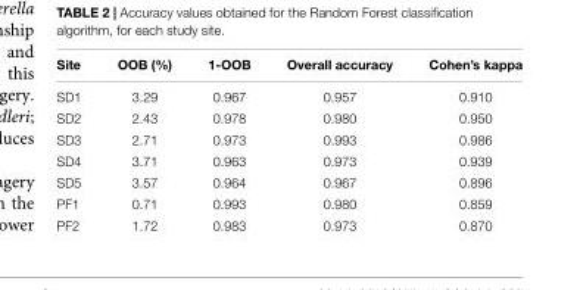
<table><thead><tr><td>Site</td><td>OOB (%)</td><td>1-OOB</td><td>Overall accuracy</td><td>Cohen’s kappa</td></tr></thead><tbody><tr><td>SD1</td><td>3.29</td><td>0.967</td><td>0.957</td><td>0.910</td></tr><tr><td>SD2</td><td>2.43</td><td>0.978</td><td>0.980</td><td>0.950</td></tr><tr><td>SD3</td><td>2.71</td><td>0.973</td><td>0.993</td><td>0.986</td></tr><tr><td>SD4</td><td>3.71</td><td>0.963</td><td>0.973</td><td>0.939</td></tr><tr><td>SD5</td><td>3.57</td><td>0.964</td><td>0.967</td><td>0.896</td></tr><tr><td>PF1</td><td>0.71</td><td>0.993</td><td>0.980</td><td>0.859</td></tr><tr><td>PF2</td><td>1.72</td><td>0.983</td><td>0.973</td><td>0.870</td></tr></tbody></table>